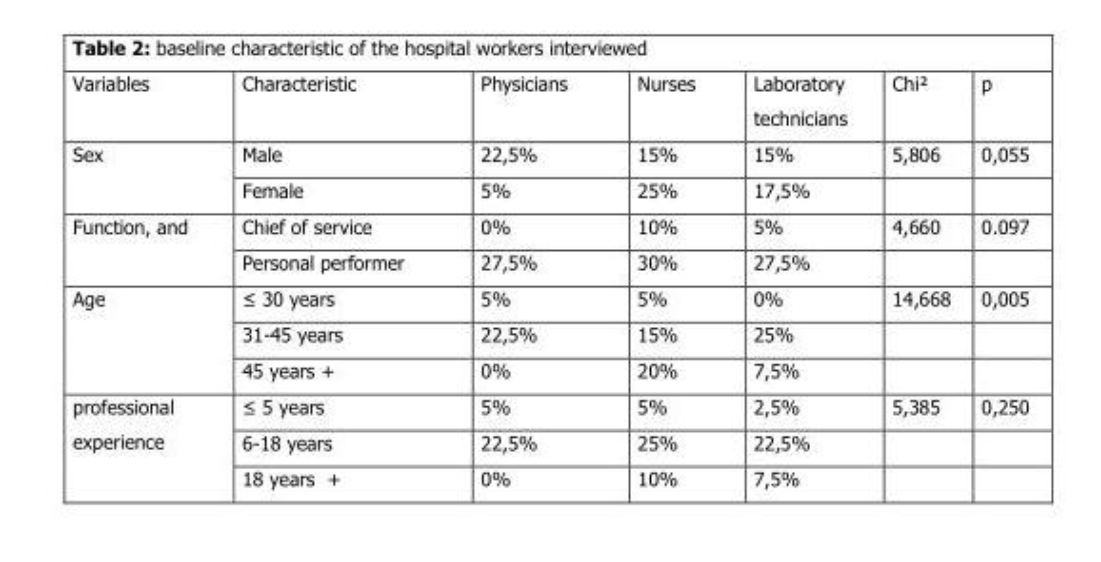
<table><thead><tr><td>Variables</td><td>Characteristic</td><td>Physicians</td><td>Nurses</td><td>Laboratory technicians</td><td>Chi²</td><td>p</td></tr></thead><tbody><tr><td rowspan="2">Sex</td><td>Male</td><td>22,5%</td><td>15%</td><td>15%</td><td>5,806</td><td>0,055</td></tr><tr><td>Female</td><td>5%</td><td>25%</td><td>17,5%</td><td></td><td></td></tr><tr><td rowspan="2">Function, and</td><td>Chief of service</td><td>0%</td><td>10%</td><td>5%</td><td>4,660</td><td>0.097</td></tr><tr><td>Personal performer</td><td>27,5%</td><td>30%</td><td>27,5%</td><td></td><td></td></tr><tr><td rowspan="3">Age</td><td>≤ 30 years</td><td>5%</td><td>5%</td><td>0%</td><td>14,668</td><td>0,005</td></tr><tr><td>31-45 years</td><td>22,5%</td><td>15%</td><td>25%</td><td></td><td></td></tr><tr><td>45 years +</td><td>0%</td><td>20%</td><td>7,5%</td><td></td><td></td></tr><tr><td rowspan="3">professional experience</td><td>≤ 5 years</td><td>5%</td><td>5%</td><td>2,5%</td><td>5,385</td><td>0,250</td></tr><tr><td>6-18 years</td><td>22,5%</td><td>25%</td><td>22,5%</td><td></td><td></td></tr><tr><td>18 years +</td><td>0%</td><td>10%</td><td>7,5%</td><td></td><td></td></tr></tbody></table>